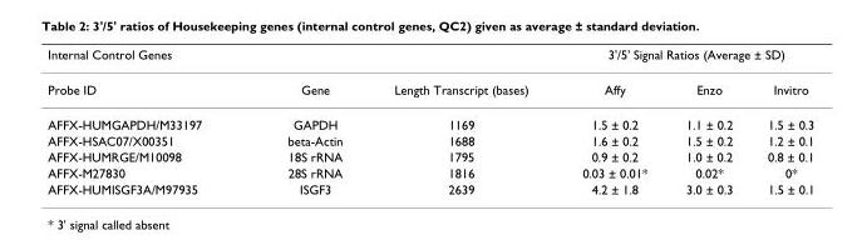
<table><thead><tr><td colspan="3">Internal Control Genes</td><td colspan="3">3&#x27;/5&#x27; Signal Ratios (Average ± SD)</td></tr><tr><td>Probe ID</td><td>Gene</td><td>Length Transcript (bases)</td><td>Affy</td><td>Enzo</td><td>Invitro</td></tr></thead><tbody><tr><td>AFFX-HUMGAPDH/M33197</td><td>GAPDH</td><td>1169</td><td>1.5 ± 0.2</td><td>1.1 ± 0.2</td><td>1.5 ± 0.3</td></tr><tr><td>AFFX-HSAC07/X00351</td><td>beta-Actin</td><td>1688</td><td>1.6 ± 0.2</td><td>1.5 ± 0.2</td><td>1.2 ± 0.1</td></tr><tr><td>AFFX-HUMRGE/M10098</td><td>18S rRNA</td><td>1795</td><td>0.9 ± 0.2</td><td>1.0 ± 0.2</td><td>0.8 ± 0.1</td></tr><tr><td>AFFX-M27830</td><td>28S rRNA</td><td>1816</td><td>0.03 ± 0.01*</td><td>0.02*</td><td>0*</td></tr><tr><td>AFFX-HUMISGF3A/M97935</td><td>ISGF3</td><td>2639</td><td>4.2 ± 1.8</td><td>3.0 ± 0.3</td><td>1.5 ± 0.1</td></tr></tbody></table>